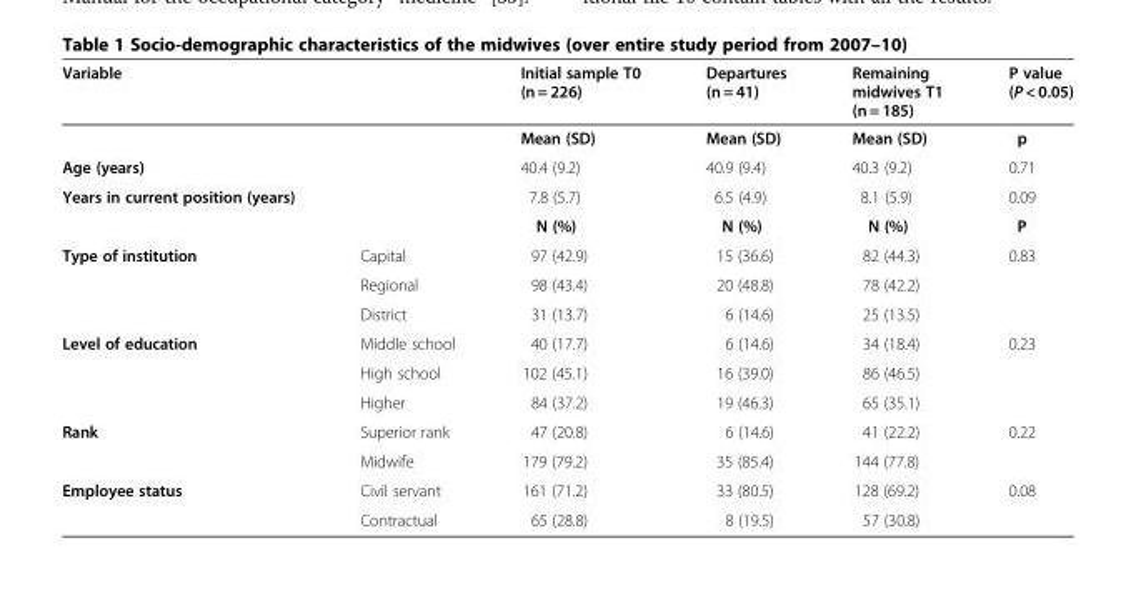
<table><thead><tr><td>Variable</td><td></td><td>Initial sample T0 (n = 226)</td><td>Departures (n = 41)</td><td>Remaining midwives T1 (n = 185)</td><td>P value (P &lt; 0.05)</td></tr></thead><tbody><tr><td></td><td></td><td>Mean (SD)</td><td>Mean (SD)</td><td>Mean (SD)</td><td>p</td></tr><tr><td>Age (years)</td><td></td><td>40.4 (9.2)</td><td>40.9 (9.4)</td><td>40.3 (9.2)</td><td>0.71</td></tr><tr><td rowspan="2">Years in current position (years)</td><td></td><td>7.8 (5.7)</td><td>6.5 (4.9)</td><td>8.1 (5.9)</td><td>0.09</td></tr><tr><td></td><td>N (%)</td><td>N (%)</td><td>N (%)</td><td>P</td></tr><tr><td rowspan="3">Type of institution</td><td>Capital</td><td>97 (42.9)</td><td>15 (36.6)</td><td>82 (44.3)</td><td>0.83</td></tr><tr><td>Regional</td><td>98 (43.4)</td><td>20 (48.8)</td><td>78 (42.2)</td><td></td></tr><tr><td>District</td><td>31 (13.7)</td><td>6 (14.6)</td><td>25 (13.5)</td><td></td></tr><tr><td rowspan="3">Level of education</td><td>Middle school</td><td>40 (17.7)</td><td>6 (14.6)</td><td>34 (18.4)</td><td>0.23</td></tr><tr><td>High school</td><td>102 (45.1)</td><td>16 (39.0)</td><td>86 (46.5)</td><td></td></tr><tr><td>Higher</td><td>84 (37.2)</td><td>19 (46.3)</td><td>65 (35.1)</td><td></td></tr><tr><td rowspan="2">Rank</td><td>Superior rank</td><td>47 (20.8)</td><td>6 (14.6)</td><td>41 (22.2)</td><td>0.22</td></tr><tr><td>Midwife</td><td>179 (79.2)</td><td>35 (85.4)</td><td>144 (77.8)</td><td></td></tr><tr><td rowspan="2">Employee status</td><td>Civil servant</td><td>161 (71.2)</td><td>33 (80.5)</td><td>128 (69.2)</td><td>0.08</td></tr><tr><td>Contractual</td><td>65 (28.8)</td><td>8 (19.5)</td><td>57 (30.8)</td><td></td></tr></tbody></table>